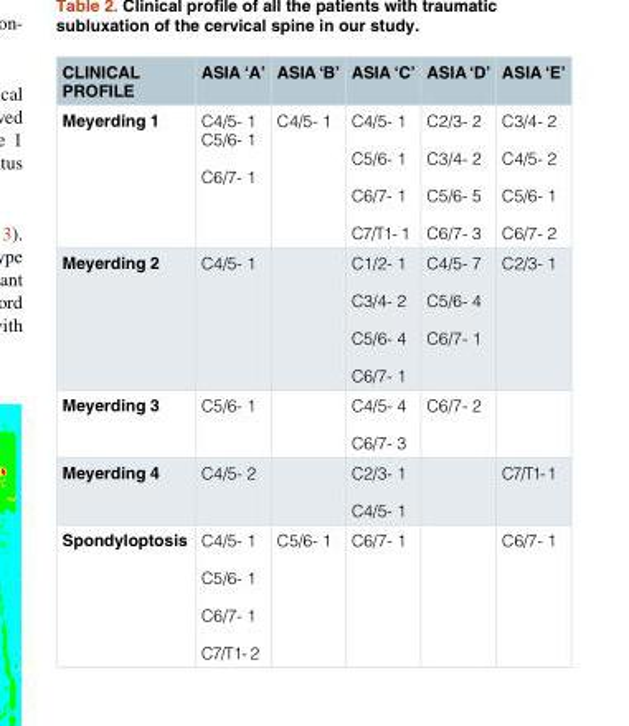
<table><thead><tr><td>CLINICAL PROFILE</td><td>ASIA ‘A’</td><td>ASIA ‘B’</td><td>ASIA ‘C’</td><td>ASIA ‘D’</td><td>ASIA ‘E’</td></tr></thead><tbody><tr><td>Meyerding 1</td><td>C4/5- 1 C5/6- 1 C6/7- 1</td><td>C4/5- 1</td><td>C4/5- 1 C5/6- 1 C6/7- 1 C7/T1- 1</td><td>C2/3- 2 C3/4- 2 C5/6- 5 C6/7- 3</td><td>C3/4- 2 C4/5- 2 C5/6- 1 C6/7- 2</td></tr><tr><td>Meyerding 2</td><td>C4/5- 1</td><td></td><td>C1/2- 1 C3/4- 2 C5/6- 4 C6/7- 1</td><td>C4/5- 7 C5/6- 4 C6/7- 1</td><td>C2/3- 1</td></tr><tr><td>Meyerding 3</td><td>C5/6- 1</td><td></td><td>C4/5- 4 C6/7- 3</td><td>C6/7- 2</td><td></td></tr><tr><td>Meyerding 4</td><td>C4/5- 2</td><td></td><td>C2/3- 1 C4/5- 1</td><td></td><td>C7/T1- 1</td></tr><tr><td>Spondyloptosis</td><td>C4/5- 1 C5/6- 1 C6/7- 1 C7/T1- 2</td><td>C5/6- 1</td><td>C6/7- 1</td><td></td><td>C6/7- 1</td></tr></tbody></table>